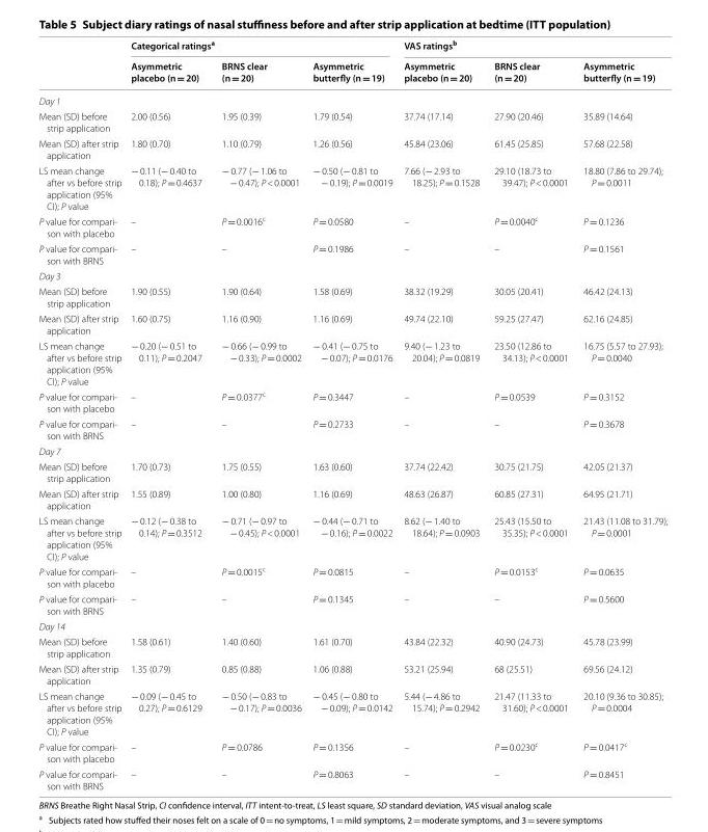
<table><thead><tr><td rowspan="2"></td><td colspan="3">Categorical ratings<sup>a</sup></td><td colspan="3">VAS ratings<sup>b</sup></td></tr><tr><td>Asymmetric placebo (n = 20)</td><td>BRNS clear (n = 20)</td><td>Asymmetric butterfly (n = 19)</td><td>Asymmetric placebo (n = 20)</td><td>BRNS clear (n = 20)</td><td>Asymmetric butterfly (n = 19)</td></tr></thead><tbody><tr><td colspan="7">Day 1</td></tr><tr><td>Mean (SD) before strip application</td><td>2.00 (0.56)</td><td>1.95 (0.39)</td><td>1.79 (0.54)</td><td>37.74 (17.14)</td><td>27.90 (20.46)</td><td>35.89 (14.64)</td></tr><tr><td>Mean (SD) after strip application</td><td>1.80 (0.70)</td><td>1.10 (0.79)</td><td>1.26 (0.56)</td><td>45.84 (23.06)</td><td>61.45 (25.85)</td><td>57.68 (22.58)</td></tr><tr><td>LS mean change after vs before strip application (95% CI); P value</td><td>− 0.11 (− 0.40 to 0.18); P = 0.4637</td><td>− 0.77 (− 1.06 to − 0.47); P &lt; 0.0001</td><td>− 0.50 (− 0.81 to − 0.19); P = 0.0019</td><td>7.66 (− 2.93 to 18.25); P = 0.1528</td><td>29.10 (18.73 to 39.47); P &lt; 0.0001</td><td>18.80 (7.86 to 29.74); P = 0.0011</td></tr><tr><td>P value for compari- son with placebo</td><td>–</td><td>P = 0.0016<sup>c</sup></td><td>P = 0.0580</td><td>–</td><td>P = 0.0040<sup>c</sup></td><td>P = 0.1236</td></tr><tr><td>P value for compari- son with BRNS</td><td>–</td><td>–</td><td>P = 0.1986</td><td>–</td><td>–</td><td>P = 0.1561</td></tr><tr><td colspan="7">Day 3</td></tr><tr><td>Mean (SD) before strip application</td><td>1.90 (0.55)</td><td>1.90 (0.64)</td><td>1.58 (0.69)</td><td>38.32 (19.29)</td><td>30.05 (20.41)</td><td>46.42 (24.13)</td></tr><tr><td>Mean (SD) after strip application</td><td>1.60 (0.75)</td><td>1.16 (0.90)</td><td>1.16 (0.69)</td><td>49.74 (22.10)</td><td>59.25 (27.47)</td><td>62.16 (24.85)</td></tr><tr><td>LS mean change after vs before strip application (95% CI); P value</td><td>− 0.20 (− 0.51 to 0.11); P = 0.2047</td><td>− 0.66 (− 0.99 to − 0.33); P = 0.0002</td><td>− 0.41 (− 0.75 to − 0.07); P = 0.0176</td><td>9.40 (− 1.23 to 20.04); P = 0.0819</td><td>23.50 (12.86 to 34.13); P &lt; 0.0001</td><td>16.75 (5.57 to 27.93); P = 0.0040</td></tr><tr><td>P value for compari- son with placebo</td><td>–</td><td>P = 0.0377<sup>c</sup></td><td>P = 0.3447</td><td>–</td><td>P = 0.0539</td><td>P = 0.3152</td></tr><tr><td>P value for compari- son with BRNS</td><td>–</td><td>–</td><td>P = 0.2733</td><td>–</td><td>–</td><td>P = 0.3678</td></tr><tr><td colspan="7">Day 7</td></tr><tr><td>Mean (SD) before strip application</td><td>1.70 (0.73)</td><td>1.75 (0.55)</td><td>1.63 (0.60)</td><td>37.74 (22.42)</td><td>30.75 (21.75)</td><td>42.05 (21.37)</td></tr><tr><td>Mean (SD) after strip application</td><td>1.55 (0.89)</td><td>1.00 (0.80)</td><td>1.16 (0.69)</td><td>48.63 (26.87)</td><td>60.85 (27.31)</td><td>64.95 (21.71)</td></tr><tr><td>LS mean change after vs before strip application (95% CI); P value</td><td>− 0.12 (− 0.38 to 0.14); P = 0.3512</td><td>− 0.71 (− 0.97 to − 0.45); P &lt; 0.0001</td><td>− 0.44 (− 0.71 to − 0.16); P = 0.0022</td><td>8.62 (− 1.40 to 18.64); P = 0.0903</td><td>25.43 (15.50 to 35.35); P &lt; 0.0001</td><td>21.43 (11.08 to 31.79); P = 0.0001</td></tr><tr><td>P value for compari- son with placebo</td><td>–</td><td>P = 0.0015<sup>c</sup></td><td>P = 0.0815</td><td>–</td><td>P = 0.0153<sup>c</sup></td><td>P = 0.0635</td></tr><tr><td>P value for compari- son with BRNS</td><td>–</td><td>–</td><td>P = 0.1345</td><td>–</td><td>–</td><td>P = 0.5600</td></tr><tr><td colspan="7">Day 14</td></tr><tr><td>Mean (SD) before strip application</td><td>1.58 (0.61)</td><td>1.40 (0.60)</td><td>1.61 (0.70)</td><td>43.84 (22.32)</td><td>40.90 (24.73)</td><td>45.78 (23.99)</td></tr><tr><td>Mean (SD) after strip application</td><td>1.35 (0.79)</td><td>0.85 (0.88)</td><td>1.06 (0.88)</td><td>53.21 (25.94)</td><td>68 (25.51)</td><td>69.56 (24.12)</td></tr><tr><td>LS mean change after vs before strip application (95% CI); P value</td><td>− 0.09 (− 0.45 to 0.27); P = 0.6129</td><td>− 0.50 (− 0.83 to − 0.17); P = 0.0036</td><td>− 0.45 (− 0.80 to − 0.09); P = 0.0142</td><td>5.44 (− 4.86 to 15.74); P = 0.2942</td><td>21.47 (11.33 to 31.60); P &lt; 0.0001</td><td>20.10 (9.36 to 30.85); P = 0.0004</td></tr><tr><td>P value for compari- son with placebo</td><td>–</td><td>P = 0.0786</td><td>P = 0.1356</td><td>–</td><td>P = 0.0230<sup>c</sup></td><td>P = 0.0417<sup>c</sup></td></tr><tr><td>P value for compari- son with BRNS</td><td>–</td><td>–</td><td>P = 0.8063</td><td>–</td><td>–</td><td>P = 0.8451</td></tr></tbody></table>